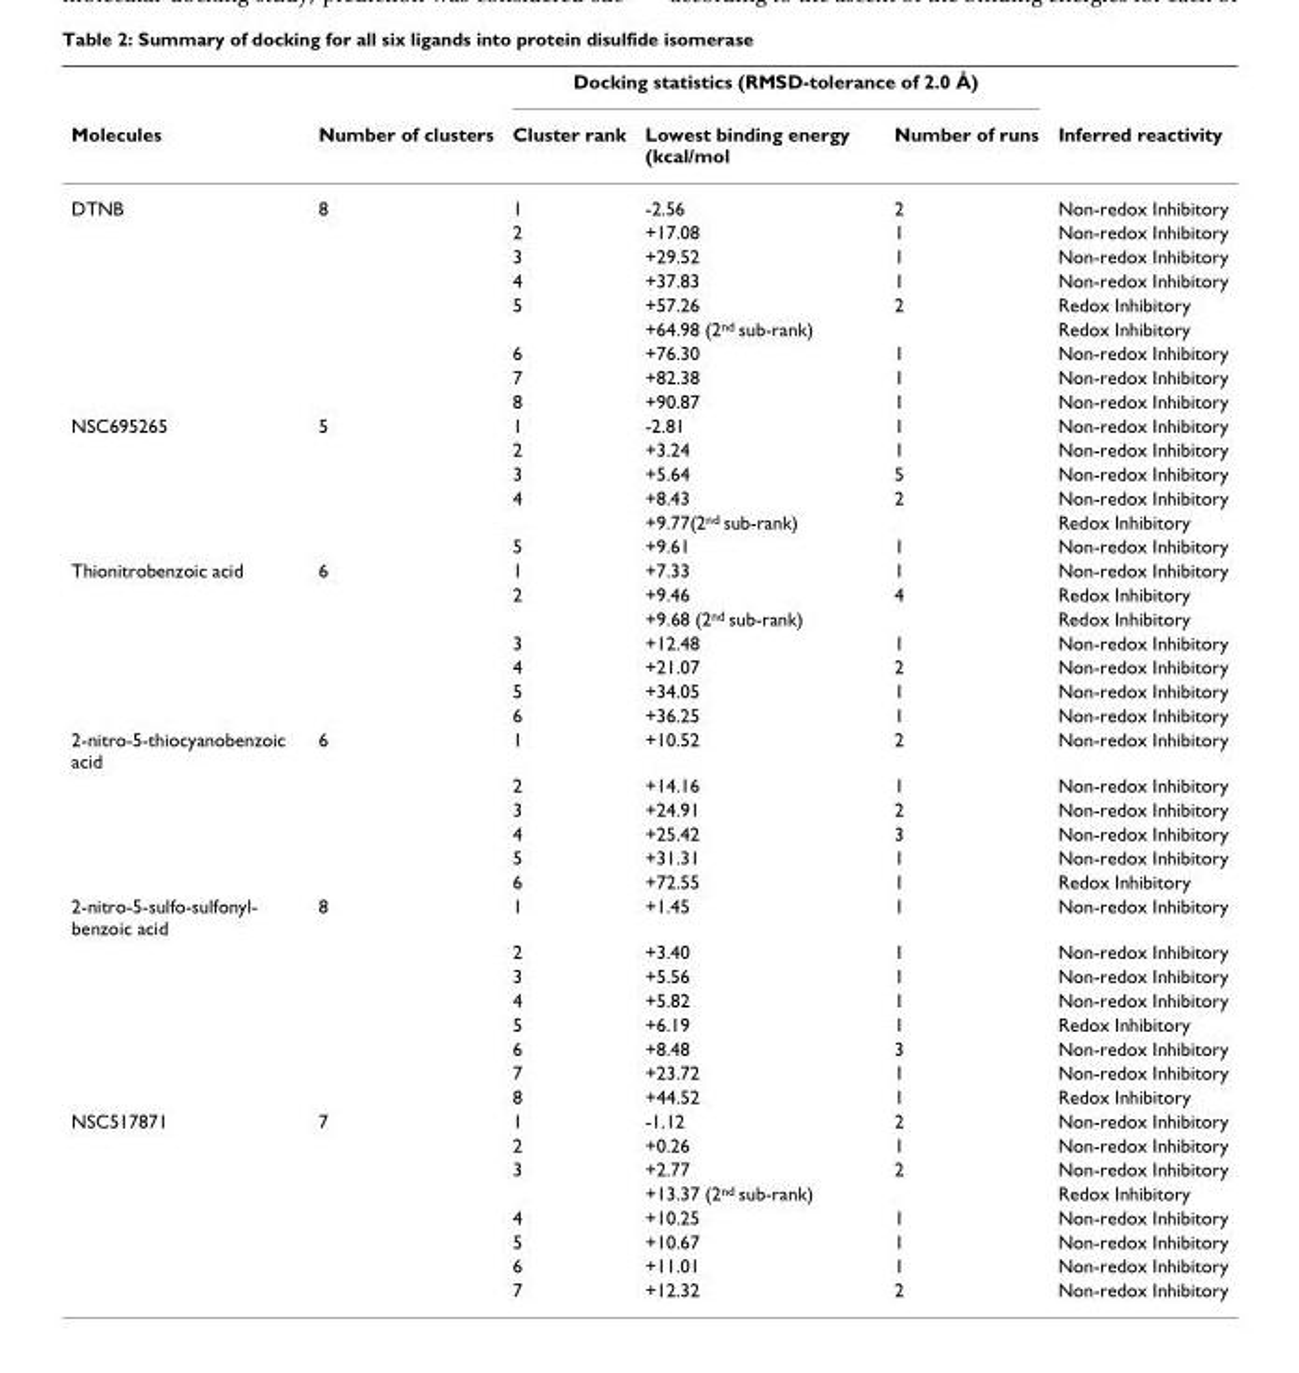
<table><thead><tr><td rowspan="2">Molecules</td><td rowspan="2">Number of clusters</td><td colspan="3">Docking statistics (RMSD-tolerance of 2.0 Å)</td><td rowspan="2">Inferred reactivity</td></tr><tr><td>Cluster rank</td><td>Lowest binding energy (kcal/mol</td><td>Number of runs</td></tr></thead><tbody><tr><td rowspan="9">DTNB</td><td>8</td><td>1</td><td>-2.56</td><td>2</td><td>Non-redox Inhibitory</td></tr><tr><td></td><td>2</td><td>+17.08</td><td>1</td><td>Non-redox Inhibitory</td></tr><tr><td></td><td>3</td><td>+29.52</td><td>1</td><td>Non-redox Inhibitory</td></tr><tr><td></td><td>4</td><td>+37.83</td><td>1</td><td>Non-redox Inhibitory</td></tr><tr><td></td><td>5</td><td>+57.26</td><td>2</td><td>Redox Inhibitory</td></tr><tr><td></td><td></td><td>+64.98 (2<sup>nd</sup> sub-rank)</td><td></td><td>Redox Inhibitory</td></tr><tr><td></td><td>6</td><td>+76.30</td><td>1</td><td>Non-redox Inhibitory</td></tr><tr><td></td><td>7</td><td>+82.38</td><td>1</td><td>Non-redox Inhibitory</td></tr><tr><td></td><td>8</td><td>+90.87</td><td>1</td><td>Non-redox Inhibitory</td></tr><tr><td rowspan="6">NSC695265</td><td>5</td><td>1</td><td>-2.81</td><td>1</td><td>Non-redox Inhibitory</td></tr><tr><td></td><td>2</td><td>+3.24</td><td>1</td><td>Non-redox Inhibitory</td></tr><tr><td></td><td>3</td><td>+5.64</td><td>5</td><td>Non-redox Inhibitory</td></tr><tr><td></td><td>4</td><td>+8.43</td><td>2</td><td>Non-redox Inhibitory</td></tr><tr><td></td><td></td><td>+9.77(2<sup>nd</sup> sub-rank)</td><td></td><td>Redox Inhibitory</td></tr><tr><td></td><td>5</td><td>+9.61</td><td>1</td><td>Non-redox Inhibitory</td></tr><tr><td rowspan="7">Thionitrobenzoic acid</td><td>6</td><td>1</td><td>+7.33</td><td>1</td><td>Non-redox Inhibitory</td></tr><tr><td></td><td>2</td><td>+9.46</td><td>4</td><td>Redox Inhibitory</td></tr><tr><td></td><td></td><td>+9.68 (2<sup>nd</sup> sub-rank)</td><td></td><td>Redox Inhibitory</td></tr><tr><td></td><td>3</td><td>+12.48</td><td>1</td><td>Non-redox Inhibitory</td></tr><tr><td></td><td>4</td><td>+21.07</td><td>2</td><td>Non-redox Inhibitory</td></tr><tr><td></td><td>5</td><td>+34.05</td><td>1</td><td>Non-redox Inhibitory</td></tr><tr><td></td><td>6</td><td>+36.25</td><td>1</td><td>Non-redox Inhibitory</td></tr><tr><td rowspan="6">2-nitro-5-thiocyanobenzoic acid</td><td>6</td><td>1</td><td>+10.52</td><td>2</td><td>Non-redox Inhibitory</td></tr><tr><td></td><td>2</td><td>+14.16</td><td>1</td><td>Non-redox Inhibitory</td></tr><tr><td></td><td>3</td><td>+24.91</td><td>2</td><td>Non-redox Inhibitory</td></tr><tr><td></td><td>4</td><td>+25.42</td><td>3</td><td>Non-redox Inhibitory</td></tr><tr><td></td><td>5</td><td>+31.31</td><td>1</td><td>Non-redox Inhibitory</td></tr><tr><td></td><td>6</td><td>+72.55</td><td>1</td><td>Redox Inhibitory</td></tr><tr><td rowspan="8">2-nitro-5-sulfo-sulfonyl- benzoic acid</td><td>8</td><td>1</td><td>+1.45</td><td>1</td><td>Non-redox Inhibitory</td></tr><tr><td></td><td>2</td><td>+3.40</td><td>1</td><td>Non-redox Inhibitory</td></tr><tr><td></td><td>3</td><td>+5.56</td><td>1</td><td>Non-redox Inhibitory</td></tr><tr><td></td><td>4</td><td>+5.82</td><td>1</td><td>Non-redox Inhibitory</td></tr><tr><td></td><td>5</td><td>+6.19</td><td>1</td><td>Redox Inhibitory</td></tr><tr><td></td><td>6</td><td>+8.48</td><td>3</td><td>Non-redox Inhibitory</td></tr><tr><td></td><td>7</td><td>+23.72</td><td>1</td><td>Non-redox Inhibitory</td></tr><tr><td></td><td>8</td><td>+44.52</td><td>1</td><td>Redox Inhibitory</td></tr><tr><td rowspan="8">NSC517871</td><td>7</td><td>1</td><td>-1.12</td><td>2</td><td>Non-redox Inhibitory</td></tr><tr><td></td><td>2</td><td>+0.26</td><td>1</td><td>Non-redox Inhibitory</td></tr><tr><td></td><td>3</td><td>+2.77</td><td>2</td><td>Non-redox Inhibitory</td></tr><tr><td></td><td></td><td>+13.37 (2<sup>nd</sup> sub-rank)</td><td></td><td>Redox Inhibitory</td></tr><tr><td></td><td>4</td><td>+10.25</td><td>1</td><td>Non-redox Inhibitory</td></tr><tr><td></td><td>5</td><td>+10.67</td><td>1</td><td>Non-redox Inhibitory</td></tr><tr><td></td><td>6</td><td>+11.01</td><td>1</td><td>Non-redox Inhibitory</td></tr><tr><td></td><td>7</td><td>+12.32</td><td>2</td><td>Non-redox Inhibitory</td></tr></tbody></table>